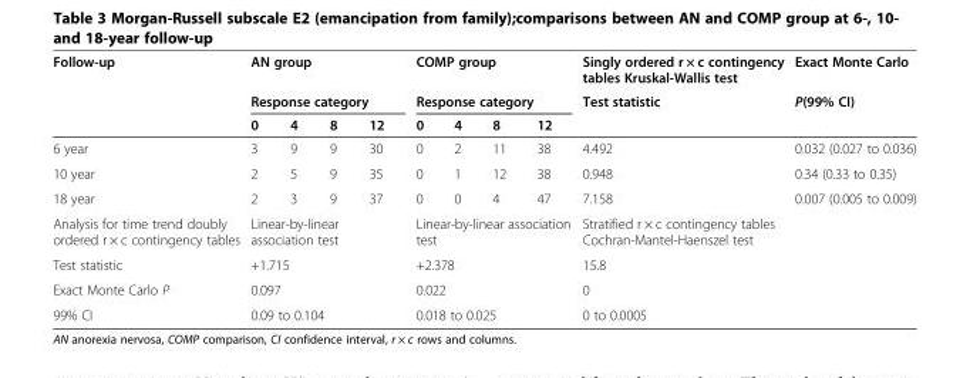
<table><thead><tr><td rowspan="3">Follow-up</td><td rowspan="2" colspan="4">AN group Response category</td><td rowspan="2" colspan="4">COMP group Response category</td><td rowspan="3">Singly ordered r × c contingency tables Kruskal-Wallis test Test statistic</td><td rowspan="3">Exact Monte Carlo P(99% CI)</td></tr><tr></tr><tr><td>0</td><td>4</td><td>8</td><td>12</td><td>0</td><td>4</td><td>8</td><td>12</td></tr></thead><tbody><tr><td>6 year</td><td>3</td><td>9</td><td>9</td><td>30</td><td>0</td><td>2</td><td>11</td><td>38</td><td>4.492</td><td>0.032 (0.027 to 0.036)</td></tr><tr><td>10 year</td><td>2</td><td>5</td><td>9</td><td>35</td><td>0</td><td>1</td><td>12</td><td>38</td><td>0.948</td><td>0.34 (0.33 to 0.35)</td></tr><tr><td>18 year</td><td>2</td><td>3</td><td>9</td><td>37</td><td>0</td><td>0</td><td>4</td><td>47</td><td>7.158</td><td>0.007 (0.005 to 0.009)</td></tr><tr><td>Analysis for time trend doubly ordered r × c contingency tables</td><td colspan="4">Linear-by-linear association test</td><td colspan="4">Linear-by-linear association test</td><td>Stratified r × c contingency tables Cochran-Mantel-Haenszel test</td><td></td></tr><tr><td>Test statistic</td><td colspan="4">+1.715</td><td colspan="4">+2.378</td><td>15.8</td><td></td></tr><tr><td>Exact Monte Carlo P</td><td colspan="4">0.097</td><td colspan="4">0.022</td><td>0</td><td></td></tr><tr><td>99% CI</td><td colspan="4">0.09 to 0.104</td><td colspan="4">0.018 to 0.025</td><td>0 to 0.0005</td><td></td></tr></tbody></table>